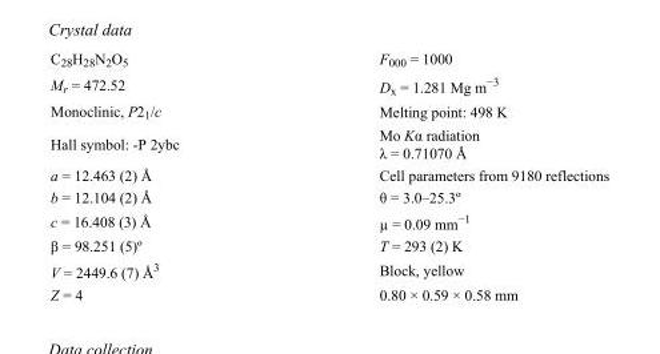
<table><tbody><tr><td>C<sub>28</sub>H<sub>28</sub>N<sub>2</sub>O<sub>5</sub></td><td>F<sub>000</sub> = 1000</td></tr><tr><td>M<sub>r</sub> = 472.52</td><td>D<sub>x</sub> = 1.281 Mg m<sup>−3</sup></td></tr><tr><td>Monoclinic, P2<sub>1</sub>/c</td><td>Melting point: 498 K</td></tr><tr><td>Hall symbol: -P 2ybc</td><td>Mo Kα radiation λ = 0.71070 Å</td></tr><tr><td>a = 12.463 (2) Å</td><td>Cell parameters from 9180 reflections</td></tr><tr><td>b = 12.104 (2) Å</td><td>θ = 3.0–25.3º</td></tr><tr><td>c = 16.408 (3) Å</td><td>µ = 0.09 mm<sup>−1</sup></td></tr><tr><td>β = 98.251 (5)º</td><td>T = 293 (2) K</td></tr><tr><td>V = 2449.6 (7) Å<sup>3</sup></td><td>Block, yellow</td></tr><tr><td>Z = 4</td><td>0.80 × 0.59 × 0.58 mm</td></tr></tbody></table>